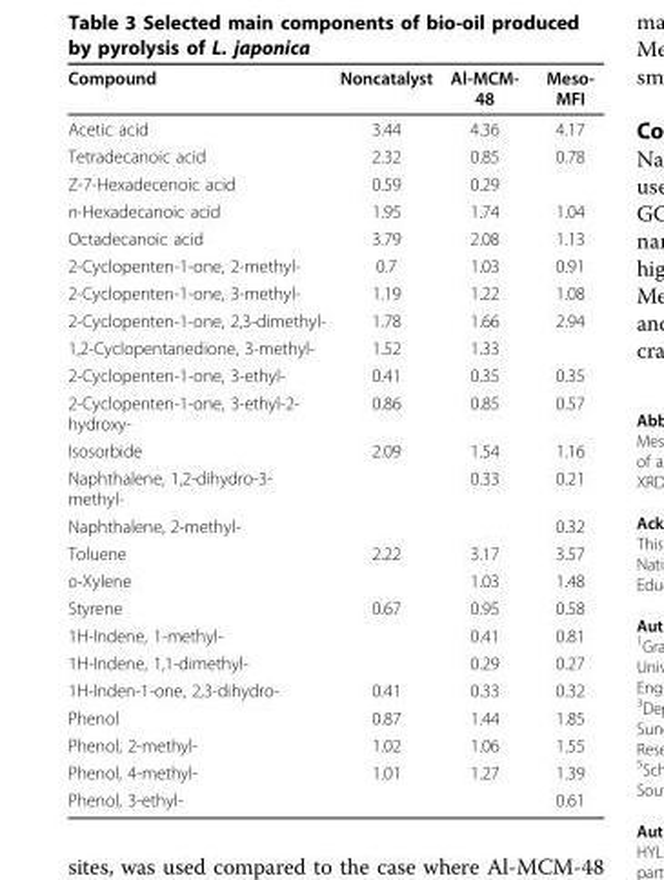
<table><thead><tr><td>Compound</td><td>Noncatalyst</td><td>Al-MCM- 48</td><td>Meso- MFI</td></tr></thead><tbody><tr><td>Acetic acid</td><td>3.44</td><td>4.36</td><td>4.17</td></tr><tr><td>Tetradecanoic acid</td><td>2.32</td><td>0.85</td><td>0.78</td></tr><tr><td>Z-7-Hexadecenoic acid</td><td>0.59</td><td>0.29</td><td></td></tr><tr><td>n-Hexadecanoic acid</td><td>1.95</td><td>1.74</td><td>1.04</td></tr><tr><td>Octadecanoic acid</td><td>3.79</td><td>2.08</td><td>1.13</td></tr><tr><td>2-Cyclopenten-1-one, 2-methyl-</td><td>0.7</td><td>1.03</td><td>0.91</td></tr><tr><td>2-Cyclopenten-1-one, 3-methyl-</td><td>1.19</td><td>1.22</td><td>1.08</td></tr><tr><td>2-Cyclopenten-1-one, 2,3-dimethyl-</td><td>1.78</td><td>1.66</td><td>2.94</td></tr><tr><td>1,2-Cyclopentanedione, 3-methyl-</td><td>1.52</td><td>1.33</td><td></td></tr><tr><td>2-Cyclopenten-1-one, 3-ethyl-</td><td>0.41</td><td>0.35</td><td>0.35</td></tr><tr><td>2-Cyclopenten-1-one, 3-ethyl-2- hydroxy-</td><td>0.86</td><td>0.85</td><td>0.57</td></tr><tr><td>Isosorbide</td><td>2.09</td><td>1.54</td><td>1.16</td></tr><tr><td>Naphthalene, 1,2-dihydro-3- methyl-</td><td></td><td>0.33</td><td>0.21</td></tr><tr><td>Naphthalene, 2-methyl-</td><td></td><td></td><td>0.32</td></tr><tr><td>Toluene</td><td>2.22</td><td>3.17</td><td>3.57</td></tr><tr><td>o-Xylene</td><td></td><td>1.03</td><td>1.48</td></tr><tr><td>Styrene</td><td>0.67</td><td>0.95</td><td>0.58</td></tr><tr><td>1H-Indene, 1-methyl-</td><td></td><td>0.41</td><td>0.81</td></tr><tr><td>1H-Indene, 1,1-dimethyl-</td><td></td><td>0.29</td><td>0.27</td></tr><tr><td>1H-Inden-1-one, 2,3-dihydro-</td><td>0.41</td><td>0.33</td><td>0.32</td></tr><tr><td>Phenol</td><td>0.87</td><td>1.44</td><td>1.85</td></tr><tr><td>Phenol, 2-methyl-</td><td>1.02</td><td>1.06</td><td>1.55</td></tr><tr><td>Phenol, 4-methyl-</td><td>1.01</td><td>1.27</td><td>1.39</td></tr><tr><td>Phenol, 3-ethyl-</td><td></td><td></td><td>0.61</td></tr></tbody></table>